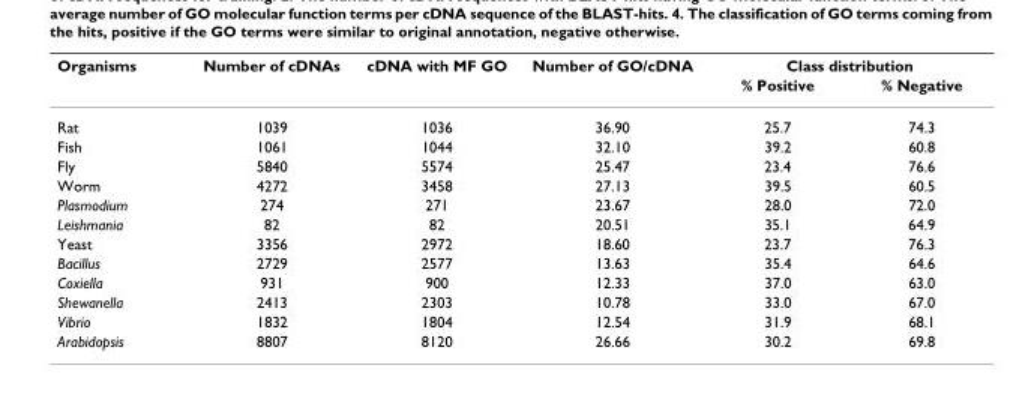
<table><thead><tr><td rowspan="2">Organisms</td><td rowspan="2">Number of cDNAs</td><td rowspan="2">cDNA with MF GO</td><td rowspan="2">Number of GO/cDNA</td><td colspan="2">Class distribution</td></tr><tr><td>% Positive</td><td>% Negative</td></tr></thead><tbody><tr><td>Rat</td><td>1039</td><td>1036</td><td>36.90</td><td>25.7</td><td>74.3</td></tr><tr><td>Fish</td><td>1061</td><td>1044</td><td>32.10</td><td>39.2</td><td>60.8</td></tr><tr><td>Fly</td><td>5840</td><td>5574</td><td>25.47</td><td>23.4</td><td>76.6</td></tr><tr><td>Worm</td><td>4272</td><td>3458</td><td>27.13</td><td>39.5</td><td>60.5</td></tr><tr><td>Plasmodium</td><td>274</td><td>271</td><td>23.67</td><td>28.0</td><td>72.0</td></tr><tr><td>Leishmania</td><td>82</td><td>82</td><td>20.51</td><td>35.1</td><td>64.9</td></tr><tr><td>Yeast</td><td>3356</td><td>2972</td><td>18.60</td><td>23.7</td><td>76.3</td></tr><tr><td>Bacillus</td><td>2729</td><td>2577</td><td>13.63</td><td>35.4</td><td>64.6</td></tr><tr><td>Coxiella</td><td>931</td><td>900</td><td>12.33</td><td>37.0</td><td>63.0</td></tr><tr><td>Shewanella</td><td>2413</td><td>2303</td><td>10.78</td><td>33.0</td><td>67.0</td></tr><tr><td>Vibrio</td><td>1832</td><td>1804</td><td>12.54</td><td>31.9</td><td>68.1</td></tr><tr><td>Arabidopsis</td><td>8807</td><td>8120</td><td>26.66</td><td>30.2</td><td>69.8</td></tr></tbody></table>